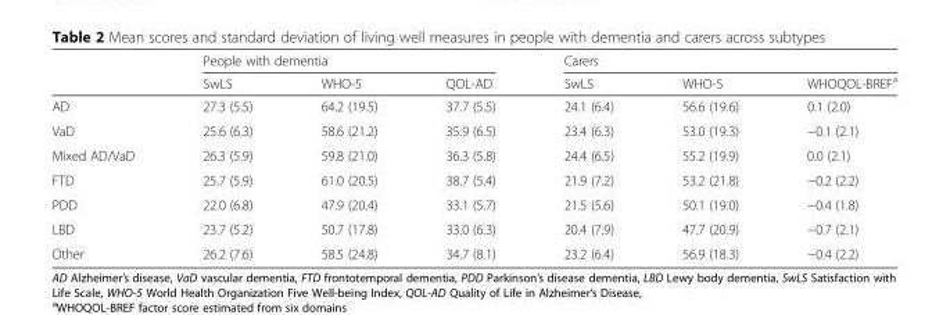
<table><thead><tr><td rowspan="2"></td><td colspan="3">People with dementia</td><td colspan="3">Carers</td></tr><tr><td>SwLS</td><td>WHO-5</td><td>QOL-AD</td><td>SwLS</td><td>WHO-5</td><td>WHOQOL-BREF<sup>a</sup></td></tr></thead><tbody><tr><td>AD</td><td>27.3 (5.5)</td><td>64.2 (19.5)</td><td>37.7 (5.5)</td><td>24.1 (6.4)</td><td>56.6 (19.6)</td><td>0.1 (2.0)</td></tr><tr><td>VaD</td><td>25.6 (6.3)</td><td>58.6 (21.2)</td><td>35.9 (6.5)</td><td>23.4 (6.3)</td><td>53.0 (19.3)</td><td>−0.1 (2.1)</td></tr><tr><td>Mixed AD/VaD</td><td>26.3 (5.9)</td><td>59.8 (21.0)</td><td>36.3 (5.8)</td><td>24.4 (6.5)</td><td>55.2 (19.9)</td><td>0.0 (2.1)</td></tr><tr><td>FTD</td><td>25.7 (5.9)</td><td>61.0 (20.5)</td><td>38.7 (5.4)</td><td>21.9 (7.2)</td><td>53.2 (21.8)</td><td>−0.2 (2.2)</td></tr><tr><td>PDD</td><td>22.0 (6.8)</td><td>47.9 (20.4)</td><td>33.1 (5.7)</td><td>21.5 (5.6)</td><td>50.1 (19.0)</td><td>−0.4 (1.8)</td></tr><tr><td>LBD</td><td>23.7 (5.2)</td><td>50.7 (17.8)</td><td>33.0 (6.3)</td><td>20.4 (7.9)</td><td>47.7 (20.9)</td><td>−0.7 (2.1)</td></tr><tr><td>Other</td><td>26.2 (7.6)</td><td>58.5 (24.8)</td><td>34.7 (8.1)</td><td>23.2 (6.4)</td><td>56.9 (18.3)</td><td>−0.4 (2.2)</td></tr></tbody></table>